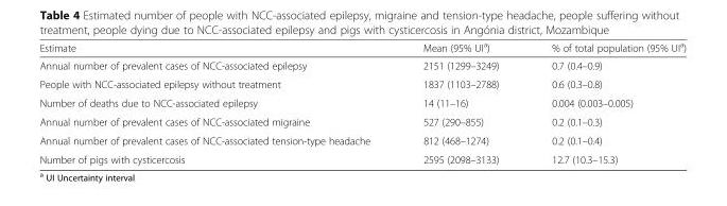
<table><thead><tr><td>Estimate</td><td>Mean (95% UI<sup>a</sup>)</td><td>% of total population (95% UI<sup>a</sup>)</td></tr></thead><tbody><tr><td>Annual number of prevalent cases of NCC-associated epilepsy</td><td>2151 (1299–3249)</td><td>0.7 (0.4–0.9)</td></tr><tr><td>People with NCC-associated epilepsy without treatment</td><td>1837 (1103–2788)</td><td>0.6 (0.3–0.8)</td></tr><tr><td>Number of deaths due to NCC-associated epilepsy</td><td>14 (11–16)</td><td>0.004 (0.003–0.005)</td></tr><tr><td>Annual number of prevalent cases of NCC-associated migraine</td><td>527 (290–855)</td><td>0.2 (0.1–0.3)</td></tr><tr><td>Annual number of prevalent cases of NCC-associated tension-type headache</td><td>812 (468–1274)</td><td>0.2 (0.1–0.4)</td></tr><tr><td>Number of pigs with cysticercosis</td><td>2595 (2098–3133)</td><td>12.7 (10.3–15.3)</td></tr></tbody></table>